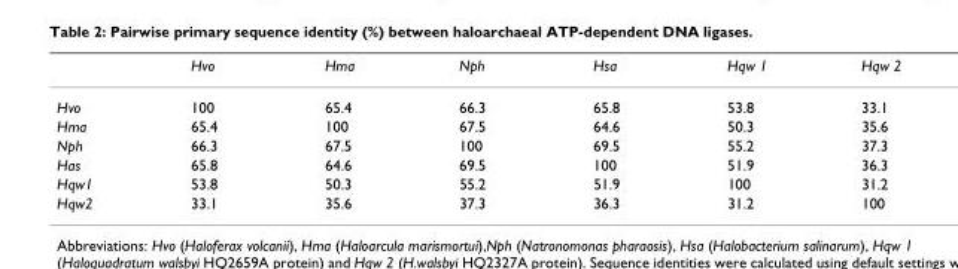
<table><thead><tr><td></td><td>Hvo</td><td>Hma</td><td>Nph</td><td>Hsa</td><td>Hqw 1</td><td>Hqw 2</td></tr></thead><tbody><tr><td>Hvo</td><td>100</td><td>65.4</td><td>66.3</td><td>65.8</td><td>53.8</td><td>33.1</td></tr><tr><td>Hma</td><td>65.4</td><td>100</td><td>67.5</td><td>64.6</td><td>50.3</td><td>35.6</td></tr><tr><td>Nph</td><td>66.3</td><td>67.5</td><td>100</td><td>69.5</td><td>55.2</td><td>37.3</td></tr><tr><td>Has</td><td>65.8</td><td>64.6</td><td>69.5</td><td>100</td><td>51.9</td><td>36.3</td></tr><tr><td>Hqw1</td><td>53.8</td><td>50.3</td><td>55.2</td><td>51.9</td><td>100</td><td>31.2</td></tr><tr><td>Hqw2</td><td>33.1</td><td>35.6</td><td>37.3</td><td>36.3</td><td>31.2</td><td>100</td></tr></tbody></table>